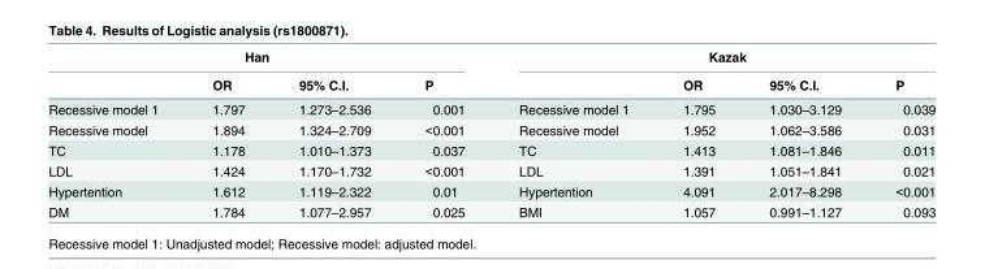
<table><thead><tr><td colspan="4">Han</td><td colspan="4">Kazak</td></tr><tr><td></td><td>OR</td><td>95% C.I.</td><td>P</td><td></td><td>OR</td><td>95% C.I.</td><td>P</td></tr></thead><tbody><tr><td>Recessive model 1</td><td>1.797</td><td>1.273–2.536</td><td>0.001</td><td>Recessive model 1</td><td>1.795</td><td>1.030–3.129</td><td>0.039</td></tr><tr><td>Recessive model</td><td>1.894</td><td>1.324–2.709</td><td>&lt;0.001</td><td>Recessive model</td><td>1.952</td><td>1.062–3.586</td><td>0.031</td></tr><tr><td>TC</td><td>1.178</td><td>1.010–1.373</td><td>0.037</td><td>TC</td><td>1.413</td><td>1.081–1.846</td><td>0.011</td></tr><tr><td>LDL</td><td>1.424</td><td>1.170–1.732</td><td>&lt;0.001</td><td>LDL</td><td>1.391</td><td>1.051–1.841</td><td>0.021</td></tr><tr><td>Hypertention</td><td>1.612</td><td>1.119–2.322</td><td>0.01</td><td>Hypertention</td><td>4.091</td><td>2.017–8.298</td><td>&lt;0.001</td></tr><tr><td>DM</td><td>1.784</td><td>1.077–2.957</td><td>0.025</td><td>BMI</td><td>1.057</td><td>0.991–1.127</td><td>0.093</td></tr></tbody></table>